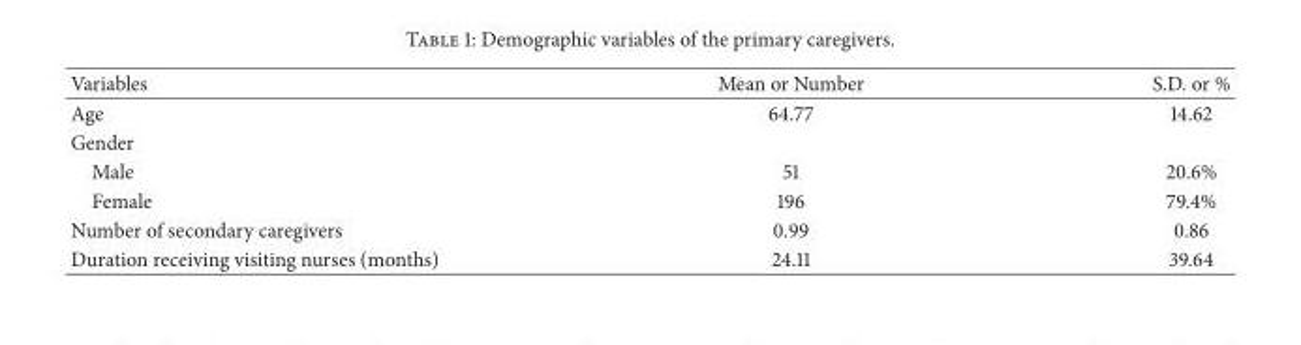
<table><thead><tr><td>Variables</td><td>Mean or Number</td><td>S.D. or %</td></tr></thead><tbody><tr><td>Age</td><td>64.77</td><td>14.62</td></tr><tr><td colspan="3">Gender</td></tr><tr><td>Male</td><td>51</td><td>20.6%</td></tr><tr><td>Female</td><td>196</td><td>79.4%</td></tr><tr><td>Number of secondary caregivers</td><td>0.99</td><td>0.86</td></tr><tr><td>Duration receiving visiting nurses (months)</td><td>24.11</td><td>39.64</td></tr></tbody></table>